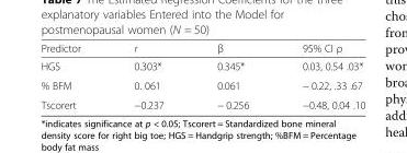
<table><thead><tr><td>Predictor</td><td>r</td><td>β</td><td>95% CI ρ</td></tr></thead><tbody><tr><td>HGS</td><td>0.303*</td><td>0.345*</td><td>0.03, 0.54 .03*</td></tr><tr><td>% BFM</td><td>0. 061</td><td>0.061</td><td>− 0.22, .33 .67</td></tr><tr><td>Tscorert</td><td>−0.237</td><td>− 0.256</td><td>−0.48, 0.04 .10</td></tr></tbody></table>